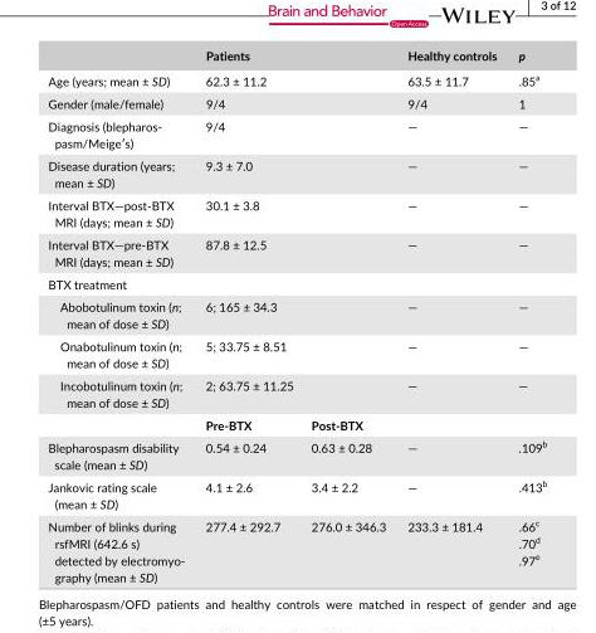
<table><thead><tr><td></td><td colspan="2">Patients</td><td>Healthy controls</td><td>p</td></tr></thead><tbody><tr><td>Age (years; mean ± SD)</td><td colspan="2">62.3 ± 11.2</td><td>63.5 ± 11.7</td><td>.85<sup>a</sup></td></tr><tr><td>Gender (male/female)</td><td colspan="2">9/4</td><td>9/4</td><td>1</td></tr><tr><td>Diagnosis (blepharos- pasm/Meige′s)</td><td colspan="2">9/4</td><td>—</td><td>—</td></tr><tr><td>Disease duration (years; mean ± SD)</td><td colspan="2">9.3 ± 7.0</td><td>—</td><td>—</td></tr><tr><td>Interval BTX—post- BTX MRI (days; mean ± SD)</td><td colspan="2">30.1 ± 3.8</td><td>—</td><td>—</td></tr><tr><td>Interval BTX—pre- BTX MRI (days; mean ± SD)</td><td colspan="2">87.8 ± 12.5</td><td>—</td><td>—</td></tr><tr><td colspan="5">BTX treatment</td></tr><tr><td>Abobotulinum toxin (n; mean of dose ± SD)</td><td colspan="2">6; 165 ± 34.3</td><td>—</td><td>—</td></tr><tr><td>Onabotulinum toxin (n; mean of dose ± SD)</td><td colspan="2">5; 33.75 ± 8.51</td><td>—</td><td>—</td></tr><tr><td rowspan="2">Incobotulinum toxin (n; mean of dose ± SD)</td><td colspan="2">2; 63.75 ± 11.25</td><td>—</td><td>—</td></tr><tr><td>Pre-BTX</td><td>Post-BTX</td><td></td><td></td></tr><tr><td>Blepharospasm disability scale (mean ± SD)</td><td>0.54 ± 0.24</td><td>0.63 ± 0.28</td><td>—</td><td>.109<sup>b</sup></td></tr><tr><td>Jankovic rating scale (mean ± SD)</td><td>4.1 ± 2.6</td><td>3.4 ± 2.2</td><td>—</td><td>.413<sup>b</sup></td></tr><tr><td>Number of blinks during rsfMRI (642.6 s) detected by electromyo- graphy (mean ± SD)</td><td>277.4 ± 292.7</td><td>276.0 ± 346.3</td><td>233.3 ± 181.4</td><td>.66<sup>c</sup> .70<sup>d</sup> .97<sup>e</sup></td></tr></tbody></table>